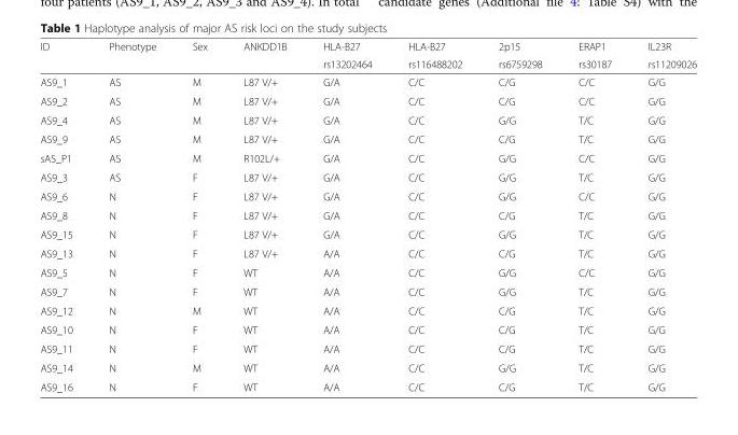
<table><thead><tr><td rowspan="2">ID</td><td rowspan="2">Phenotype</td><td rowspan="2">Sex</td><td rowspan="2">ANKDD1B</td><td rowspan="2">HLA-B27 rs13202464</td><td rowspan="2">HLA-B27 rs116488202</td><td rowspan="2">2p15 rs6759298</td><td rowspan="2">ERAP1 rs30187</td><td rowspan="2">IL23R rs11209026</td></tr><tr></tr></thead><tbody><tr><td>AS9_1</td><td>AS</td><td>M</td><td>L87 V/+</td><td>G/A</td><td>C/C</td><td>C/G</td><td>C/C</td><td>G/G</td></tr><tr><td>AS9_2</td><td>AS</td><td>M</td><td>L87 V/+</td><td>G/A</td><td>C/C</td><td>C/G</td><td>C/C</td><td>G/G</td></tr><tr><td>AS9_4</td><td>AS</td><td>M</td><td>L87 V/+</td><td>G/A</td><td>C/C</td><td>G/G</td><td>T/C</td><td>G/G</td></tr><tr><td>AS9_9</td><td>AS</td><td>M</td><td>L87 V/+</td><td>G/A</td><td>C/C</td><td>C/G</td><td>T/C</td><td>G/G</td></tr><tr><td>sAS_P1</td><td>AS</td><td>M</td><td>R102L/+</td><td>G/A</td><td>C/C</td><td>G/G</td><td>C/C</td><td>G/G</td></tr><tr><td>AS9_3</td><td>AS</td><td>F</td><td>L87 V/+</td><td>G/A</td><td>C/C</td><td>G/G</td><td>T/C</td><td>G/G</td></tr><tr><td>AS9_6</td><td>N</td><td>F</td><td>L87 V/+</td><td>G/A</td><td>C/C</td><td>G/G</td><td>C/C</td><td>G/G</td></tr><tr><td>AS9_8</td><td>N</td><td>F</td><td>L87 V/+</td><td>G/A</td><td>C/C</td><td>C/G</td><td>T/C</td><td>G/G</td></tr><tr><td>AS9_15</td><td>N</td><td>F</td><td>L87 V/+</td><td>G/A</td><td>C/C</td><td>G/G</td><td>T/C</td><td>G/G</td></tr><tr><td>AS9_13</td><td>N</td><td>F</td><td>L87 V/+</td><td>A/A</td><td>C/C</td><td>C/G</td><td>T/C</td><td>G/G</td></tr><tr><td>AS9_5</td><td>N</td><td>F</td><td>WT</td><td>A/A</td><td>C/C</td><td>G/G</td><td>C/C</td><td>G/G</td></tr><tr><td>AS9_7</td><td>N</td><td>F</td><td>WT</td><td>A/A</td><td>C/C</td><td>G/G</td><td>T/C</td><td>G/G</td></tr><tr><td>AS9_12</td><td>N</td><td>M</td><td>WT</td><td>A/A</td><td>C/C</td><td>C/G</td><td>T/C</td><td>G/G</td></tr><tr><td>AS9_10</td><td>N</td><td>F</td><td>WT</td><td>A/A</td><td>C/C</td><td>C/G</td><td>T/C</td><td>G/G</td></tr><tr><td>AS9_11</td><td>N</td><td>F</td><td>WT</td><td>A/A</td><td>C/C</td><td>C/G</td><td>T/C</td><td>G/G</td></tr><tr><td>AS9_14</td><td>N</td><td>M</td><td>WT</td><td>A/A</td><td>C/C</td><td>G/G</td><td>T/C</td><td>G/G</td></tr><tr><td>AS9_16</td><td>N</td><td>F</td><td>WT</td><td>A/A</td><td>C/C</td><td>C/G</td><td>T/C</td><td>G/G</td></tr></tbody></table>